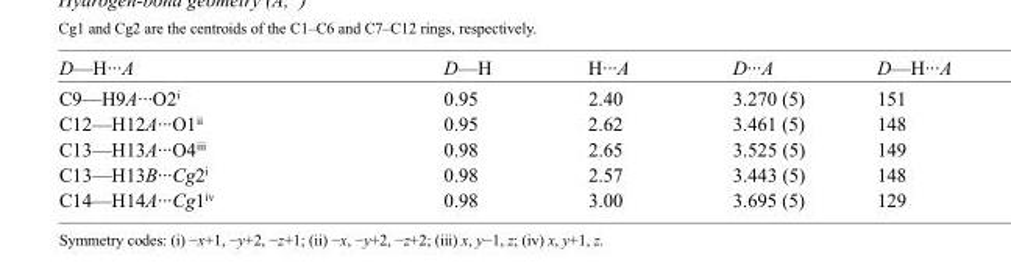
<table><tbody><tr><td>D—H···A</td><td>D—H</td><td>H···A</td><td>D···A</td><td>D—H···A</td></tr><tr><td>C9—H9A···O2<sup>i</sup></td><td>0.95</td><td>2.40</td><td>3.270 (5)</td><td>151</td></tr><tr><td>C12—H12A···O1<sup>ii</sup></td><td>0.95</td><td>2.62</td><td>3.461 (5)</td><td>148</td></tr><tr><td>C13—H13A···O4<sup>iii</sup></td><td>0.98</td><td>2.65</td><td>3.525 (5)</td><td>149</td></tr><tr><td>C13—H13B···Cg2<sup>i</sup></td><td>0.98</td><td>2.57</td><td>3.443 (5)</td><td>148</td></tr><tr><td>C14—H14A···Cg1<sup>iv</sup></td><td>0.98</td><td>3.00</td><td>3.695 (5)</td><td>129</td></tr></tbody></table>